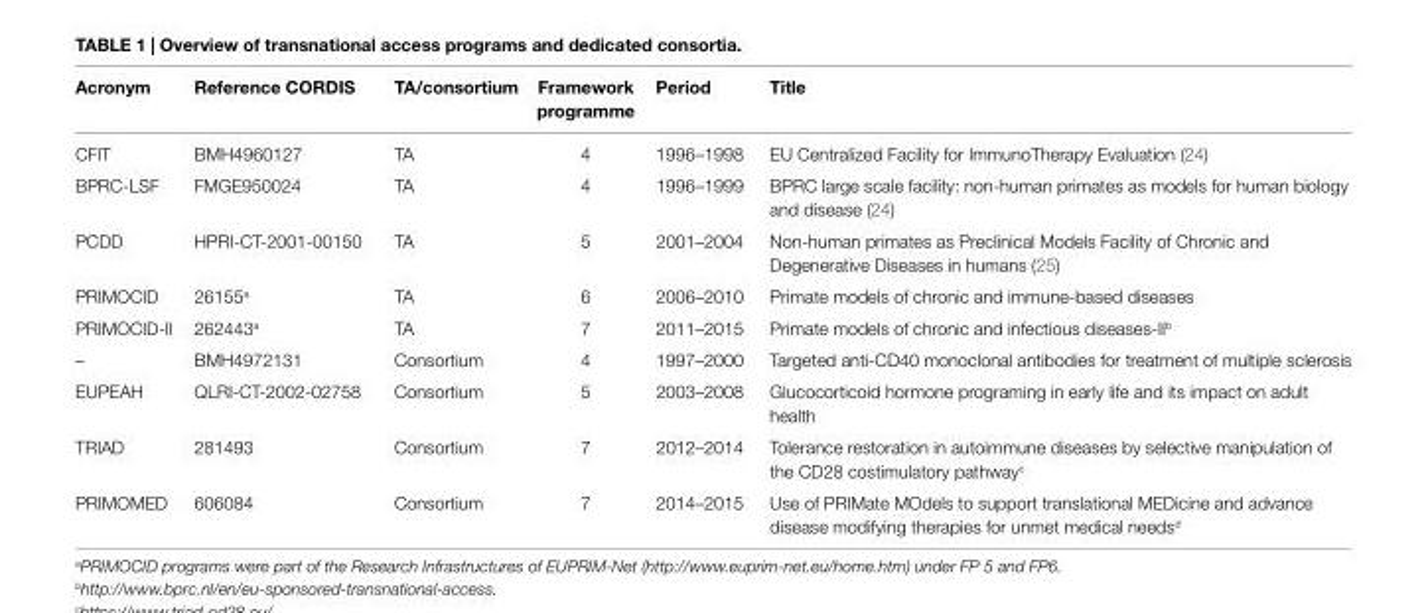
<table><thead><tr><td>Acronym</td><td>reference cOrDis</td><td>tA/consortium</td><td>Framework programme</td><td>Period</td><td>title</td></tr></thead><tbody><tr><td>CFIT</td><td>BMH4960127</td><td>TA</td><td>4</td><td>1996–1998</td><td>EU Centralized Facility for ImmunoTherapy Evaluation (24)</td></tr><tr><td>BPRC-LSF</td><td>FMGE950024</td><td>TA</td><td>4</td><td>1996–1999</td><td>BPRC large scale facility: non-human primates as models for human biology and disease (24)</td></tr><tr><td>PCDD</td><td>HPRI-CT-2001-00150</td><td>TA</td><td>5</td><td>2001–2004</td><td>Non-human primates as Preclinical Models Facility of Chronic and Degenerative Diseases in humans (25)</td></tr><tr><td>PRIMOCID</td><td>26155<sup>a</sup></td><td>TA</td><td>6</td><td>2006–2010</td><td>Primate models of chronic and immune-based diseases</td></tr><tr><td>PRIMOCID-II</td><td>262443<sup>a</sup></td><td>TA</td><td>7</td><td>2011–2015</td><td>Primate models of chronic and infectious diseases-II<sup>b</sup></td></tr><tr><td>–</td><td>BMH4972131</td><td>Consortium</td><td>4</td><td>1997–2000</td><td>Targeted anti-CD40 monoclonal antibodies for treatment of multiple sclerosis</td></tr><tr><td>EUPEAH</td><td>QLRI-CT-2002-02758</td><td>Consortium</td><td>5</td><td>2003–2008</td><td>Glucocorticoid hormone programing in early life and its impact on adult health</td></tr><tr><td>TRIAD</td><td>281493</td><td>Consortium</td><td>7</td><td>2012–2014</td><td>Tolerance restoration in autoimmune diseases by selective manipulation of the CD28 costimulatory pathway<sup>c</sup></td></tr><tr><td>PRIMOMED</td><td>606084</td><td>Consortium</td><td>7</td><td>2014–2015</td><td>Use of PRIMate MOdels to support translational MEDicine and advance disease modifying therapies for unmet medical needs<sup>d</sup></td></tr></tbody></table>